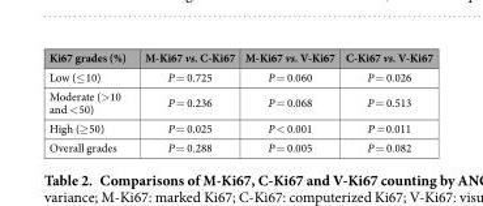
<table><thead><tr><td>Ki67 grades (%)</td><td>M-Ki67 vs. C-Ki67</td><td>M-Ki67 vs. V-Ki67</td><td>C-Ki67 vs. V-Ki67</td></tr></thead><tbody><tr><td>Low (≤ 10)</td><td>P = 0.725</td><td>P = 0.060</td><td>P = 0.026</td></tr><tr><td>Moderate (&gt;10 and &lt; 50)</td><td>P = 0.236</td><td>P = 0.068</td><td>P = 0.513</td></tr><tr><td>High (≥ 50)</td><td>P = 0.025</td><td>P &lt; 0.001</td><td>P = 0.011</td></tr><tr><td>Overall grades</td><td>P = 0.288</td><td>P = 0.005</td><td>P = 0.082</td></tr></tbody></table>